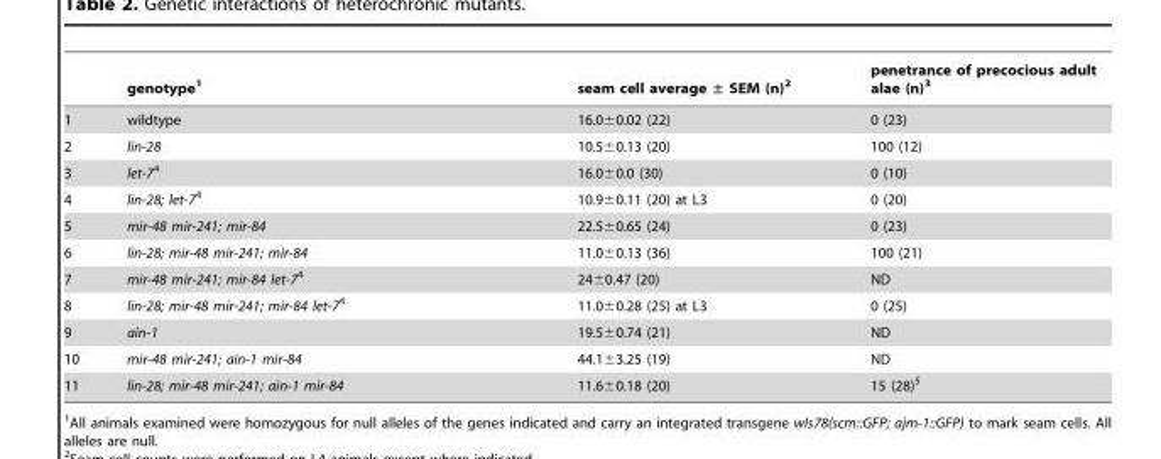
<table><thead><tr><td></td><td>genotype<sup>1</sup></td><td>seam cell average ± SEM (n)<sup>2</sup></td><td>penetrance of precocious adult alae (n)<sup>3</sup></td></tr></thead><tbody><tr><td>1</td><td>wildtype</td><td>16.0±0.02 (22)</td><td>0 (23)</td></tr><tr><td>2</td><td>lin-28</td><td>10.5±0.13 (20)</td><td>100 (12)</td></tr><tr><td>3</td><td>let-74</td><td>16.0±0.0 (30)</td><td>0 (10)</td></tr><tr><td>4</td><td>lin-28; let-74</td><td>10.9±0.11 (20) at L3</td><td>0 (20)</td></tr><tr><td>5</td><td>mir-48 mir-241; mir-84</td><td>22.5±0.65 (24)</td><td>0 (23)</td></tr><tr><td>6</td><td>lin-28; mir-48 mir-241; mir-84</td><td>11.0±0.13 (36)</td><td>100 (21)</td></tr><tr><td>7</td><td>mir-48 mir-241; mir-84 let-74</td><td>24±0.47 (20)</td><td>ND</td></tr><tr><td>8</td><td>lin-28; mir-48 mir-241; mir-84 let-74</td><td>11.0±0.28 (25) at L3</td><td>0 (25)</td></tr><tr><td>9</td><td>ain-1</td><td>19.5±0.74 (21)</td><td>ND</td></tr><tr><td>10</td><td>mir-48 mir-241; ain-1 mir-84</td><td>44.1±3.25 (19)</td><td>ND</td></tr><tr><td>11</td><td>lin-28; mir-48 mir-241; ain-1 mir-84</td><td>11.6±0.18 (20)</td><td>15 (28)<sup>5</sup></td></tr></tbody></table>